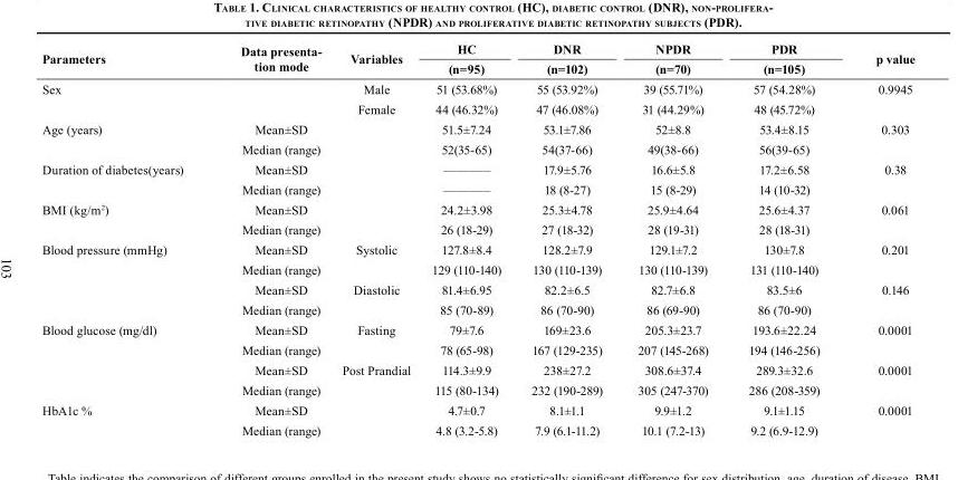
<table><thead><tr><td rowspan="2">Parameters</td><td rowspan="2">Data presenta- tion mode</td><td rowspan="2">Variables</td><td rowspan="2">HC (n=95)</td><td rowspan="2">DNR (n=102)</td><td rowspan="2">NPDR (n=70)</td><td rowspan="2">PDR (n=105)</td><td rowspan="2">p value</td></tr><tr></tr></thead><tbody><tr><td rowspan="2">Sex</td><td></td><td>Male</td><td>51 (53.68%)</td><td>55 (53.92%)</td><td>39 (55.71%)</td><td>57 (54.28%)</td><td>0.9945</td></tr><tr><td></td><td>Female</td><td>44 (46.32%)</td><td>47 (46.08%)</td><td>31 (44.29%)</td><td>48 (45.72%)</td><td></td></tr><tr><td rowspan="2">Age (years)</td><td>Mean±SD</td><td></td><td>51.5±7.24</td><td>53.1±7.86</td><td>52±8.8</td><td>53.4±8.15</td><td>0.303</td></tr><tr><td>Median (range)</td><td></td><td>52(35-65)</td><td>54(37-66)</td><td>49(38-66)</td><td>56(39-65)</td><td></td></tr><tr><td rowspan="2">Duration of diabetes(years)</td><td>Mean±SD</td><td></td><td>———–</td><td>17.9±5.76</td><td>16.6±5.8</td><td>17.2±6.58</td><td>0.38</td></tr><tr><td>Median (range)</td><td></td><td>———–</td><td>18 (8-27)</td><td>15 (8-29)</td><td>14 (10-32)</td><td></td></tr><tr><td rowspan="2">BMI (kg/m<sup>2</sup>)</td><td>Mean±SD</td><td></td><td>24.2±3.98</td><td>25.3±4.78</td><td>25.9±4.64</td><td>25.6±4.37</td><td>0.061</td></tr><tr><td>Median (range)</td><td></td><td>26 (18-29)</td><td>27 (18-32)</td><td>28 (19-31)</td><td>28 (18-31)</td><td></td></tr><tr><td rowspan="4">Blood pressure (mmHg)</td><td>Mean±SD</td><td>Systolic</td><td>127.8±8.4</td><td>128.2±7.9</td><td>129.1±7.2</td><td>130±7.8</td><td>0.201</td></tr><tr><td>Median (range)</td><td></td><td>129 (110-140)</td><td>130 (110-139)</td><td>130 (110-139)</td><td>131 (110-140)</td><td></td></tr><tr><td>Mean±SD</td><td>Diastolic</td><td>81.4±6.95</td><td>82.2±6.5</td><td>82.7±6.8</td><td>83.5±6</td><td>0.146</td></tr><tr><td>Median (range)</td><td></td><td>85 (70-89)</td><td>86 (70-90)</td><td>86 (69-90)</td><td>86 (70-90)</td><td></td></tr><tr><td rowspan="4">Blood glucose (mg/dl)</td><td>Mean±SD</td><td>Fasting</td><td>79±7.6</td><td>169±23.6</td><td>205.3±23.7</td><td>193.6±22.24</td><td>0.0001</td></tr><tr><td>Median (range)</td><td></td><td>78 (65-98)</td><td>167 (129-235)</td><td>207 (145-268)</td><td>194 (146-256)</td><td></td></tr><tr><td>Mean±SD</td><td>Post Prandial</td><td>114.3±9.9</td><td>238±27.2</td><td>308.6±37.4</td><td>289.3±32.6</td><td>0.0001</td></tr><tr><td>Median (range)</td><td></td><td>115 (80-134)</td><td>232 (190-289)</td><td>305 (247-370)</td><td>286 (208-359)</td><td></td></tr><tr><td rowspan="2">HbA1c %</td><td>Mean±SD</td><td></td><td>4.7±0.7</td><td>8.1±1.1</td><td>9.9±1.2</td><td>9.1±1.15</td><td>0.0001</td></tr><tr><td>Median (range)</td><td></td><td>4.8 (3.2-5.8)</td><td>7.9 (6.1-11.2)</td><td>10.1 (7.2-13)</td><td>9.2 (6.9-12.9)</td><td></td></tr></tbody></table>